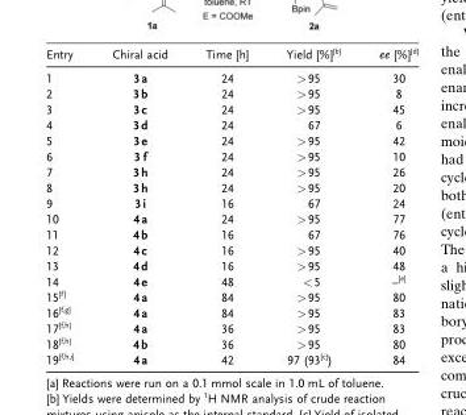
<table><thead><tr><td>Entry</td><td>Chiral acid</td><td>Time [h]</td><td>Yield [%][b]</td><td>ee [%][d]</td></tr></thead><tbody><tr><td>1</td><td>3a</td><td>24</td><td>&gt;95</td><td>30</td></tr><tr><td>2</td><td>3b</td><td>24</td><td>&gt;95</td><td>8</td></tr><tr><td>3</td><td>3c</td><td>24</td><td>&gt;95</td><td>45</td></tr><tr><td>4</td><td>3d</td><td>24</td><td>67</td><td>6</td></tr><tr><td>5</td><td>3e</td><td>24</td><td>&gt;95</td><td>42</td></tr><tr><td>6</td><td>3 f</td><td>24</td><td>&gt;95</td><td>10</td></tr><tr><td>7</td><td>3h</td><td>24</td><td>&gt;95</td><td>26</td></tr><tr><td>8</td><td>3h</td><td>24</td><td>&gt;95</td><td>20</td></tr><tr><td>9</td><td>3i</td><td>16</td><td>67</td><td>24</td></tr><tr><td>10</td><td>4a</td><td>24</td><td>&gt;95</td><td>77</td></tr><tr><td>11</td><td>4b</td><td>16</td><td>67</td><td>76</td></tr><tr><td>12</td><td>4c</td><td>16</td><td>&gt;95</td><td>40</td></tr><tr><td>13</td><td>4d</td><td>16</td><td>&gt;95</td><td>48</td></tr><tr><td>14</td><td>4e</td><td>48</td><td>&lt;5</td><td>–[e]</td></tr><tr><td>15[f]</td><td>4a</td><td>84</td><td>&gt;95</td><td>80</td></tr><tr><td>16[f,g]</td><td>4a</td><td>84</td><td>&gt;95</td><td>83</td></tr><tr><td>17[f,h]</td><td>4a</td><td>36</td><td>&gt;95</td><td>83</td></tr><tr><td>18[f,h]</td><td>4b</td><td>36</td><td>&gt;95</td><td>80</td></tr><tr><td>19[f,h,i]</td><td>4a</td><td>42</td><td>97 (93[c])</td><td>84</td></tr></tbody></table>